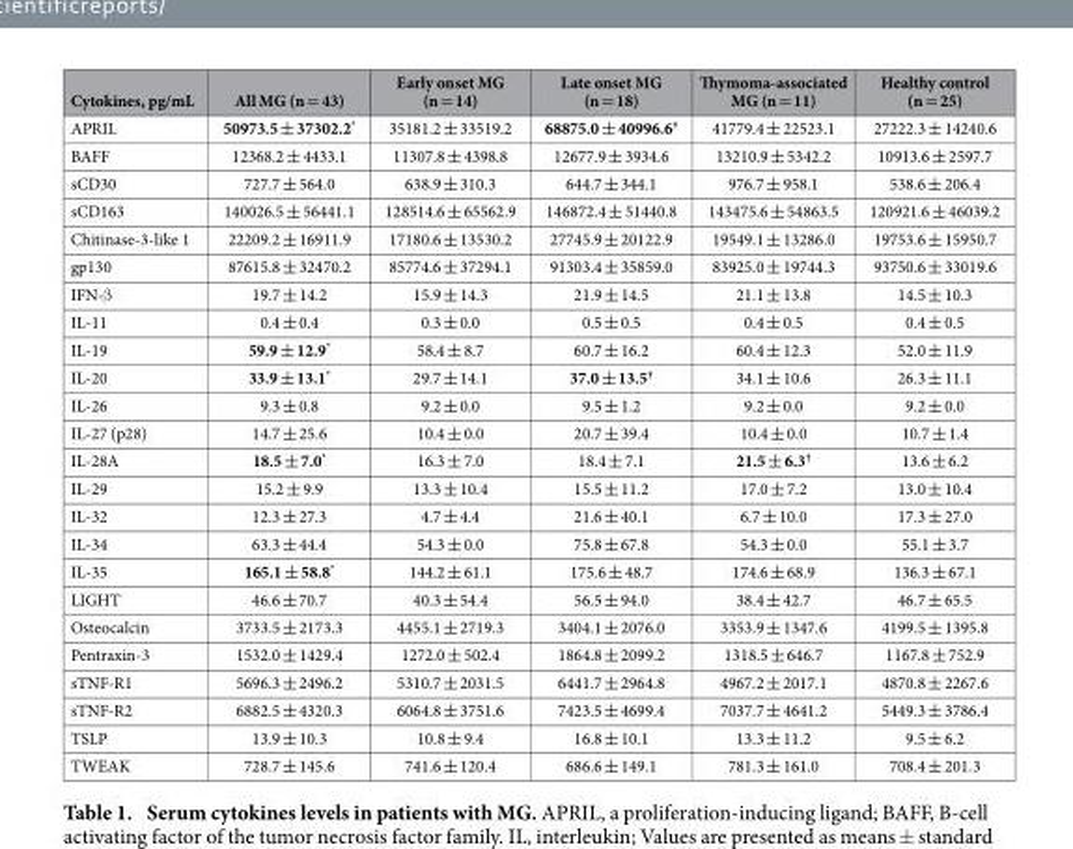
<table><thead><tr><td>Cytokines, pg/mL</td><td>All MG (n = 43)</td><td>Early onset MG (n = 14)</td><td>Late onset MG (n = 18)</td><td>Thymoma-associated MG (n = 11)</td><td>Healthy control (n = 25)</td></tr></thead><tbody><tr><td>APRIL</td><td>50973.5 ± 37302.2*</td><td>35181.2 ± 33519.2</td><td>68875.0 ± 40996.6†</td><td>41779.4 ± 22523.1</td><td>27222.3 ± 14240.6</td></tr><tr><td>BAFF</td><td>12368.2 ± 4433.1</td><td>11307.8 ± 4398.8</td><td>12677.9 ± 3934.6</td><td>13210.9 ± 5342.2</td><td>10913.6 ± 2597.7</td></tr><tr><td>sCD30</td><td>727.7 ± 564.0</td><td>638.9 ± 310.3</td><td>644.7 ± 344.1</td><td>976.7 ± 958.1</td><td>538.6 ± 206.4</td></tr><tr><td>sCD163</td><td>140026.5 ± 56441.1</td><td>128514.6 ± 65562.9</td><td>146872.4 ± 51440.8</td><td>143475.6 ± 54863.5</td><td>120921.6 ± 46039.2</td></tr><tr><td>Chitinase-3-like 1</td><td>22209.2 ± 16911.9</td><td>17180.6 ± 13530.2</td><td>27745.9 ± 20122.9</td><td>19549.1 ± 13286.0</td><td>19753.6 ± 15950.7</td></tr><tr><td>gp130</td><td>87615.8 ± 32470.2</td><td>85774.6 ± 37294.1</td><td>91303.4 ± 35859.0</td><td>83925.0 ± 19744.3</td><td>93750.6 ± 33019.6</td></tr><tr><td>IFN-β</td><td>19.7 ± 14.2</td><td>15.9 ± 14.3</td><td>21.9 ± 14.5</td><td>21.1 ± 13.8</td><td>14.5 ± 10.3</td></tr><tr><td>IL-11</td><td>0.4 ± 0.4</td><td>0.3 ± 0.0</td><td>0.5 ± 0.5</td><td>0.4 ± 0.5</td><td>0.4 ± 0.5</td></tr><tr><td>IL-19</td><td>59.9 ± 12.9*</td><td>58.4 ± 8.7</td><td>60.7 ± 16.2</td><td>60.4 ± 12.3</td><td>52.0 ± 11.9</td></tr><tr><td>IL-20</td><td>33.9 ± 13.1*</td><td>29.7 ± 14.1</td><td>37.0 ± 13.5†</td><td>34.1 ± 10.6</td><td>26.3 ± 11.1</td></tr><tr><td>IL-26</td><td>9.3 ± 0.8</td><td>9.2 ± 0.0</td><td>9.5 ± 1.2</td><td>9.2 ± 0.0</td><td>9.2 ± 0.0</td></tr><tr><td>IL-27 (p28)</td><td>14.7 ± 25.6</td><td>10.4 ± 0.0</td><td>20.7 ± 39.4</td><td>10.4 ± 0.0</td><td>10.7 ± 1.4</td></tr><tr><td>IL-28A</td><td>18.5 ± 7.0*</td><td>16.3 ± 7.0</td><td>18.4 ± 7.1</td><td>21.5 ± 6.3†</td><td>13.6 ± 6.2</td></tr><tr><td>IL-29</td><td>15.2 ± 9.9</td><td>13.3 ± 10.4</td><td>15.5 ± 11.2</td><td>17.0 ± 7.2</td><td>13.0 ± 10.4</td></tr><tr><td>IL-32</td><td>12.3 ± 27.3</td><td>4.7 ± 4.4</td><td>21.6 ± 40.1</td><td>6.7 ± 10.0</td><td>17.3 ± 27.0</td></tr><tr><td>IL-34</td><td>63.3 ± 44.4</td><td>54.3 ± 0.0</td><td>75.8 ± 67.8</td><td>54.3 ± 0.0</td><td>55.1 ± 3.7</td></tr><tr><td>IL-35</td><td>165.1 ± 58.8*</td><td>144.2 ± 61.1</td><td>175.6 ± 48.7</td><td>174.6 ± 68.9</td><td>136.3 ± 67.1</td></tr><tr><td>LIGHT</td><td>46.6 ± 70.7</td><td>40.3 ± 54.4</td><td>56.5 ± 94.0</td><td>38.4 ± 42.7</td><td>46.7 ± 65.5</td></tr><tr><td>Osteocalcin</td><td>3733.5 ± 2173.3</td><td>4455.1 ± 2719.3</td><td>3404.1 ± 2076.0</td><td>3353.9 ± 1347.6</td><td>4199.5 ± 1395.8</td></tr><tr><td>Pentraxin-3</td><td>1532.0 ± 1429.4</td><td>1272.0 ± 502.4</td><td>1864.8 ± 2099.2</td><td>1318.5 ± 646.7</td><td>1167.8 ± 752.9</td></tr><tr><td>sTNF-R1</td><td>5696.3 ± 2496.2</td><td>5310.7 ± 2031.5</td><td>6441.7 ± 2964.8</td><td>4967.2 ± 2017.1</td><td>4870.8 ± 2267.6</td></tr><tr><td>sTNF-R2</td><td>6882.5 ± 4320.3</td><td>6064.8 ± 3751.6</td><td>7423.5 ± 4699.4</td><td>7037.7 ± 4641.2</td><td>5449.3 ± 3786.4</td></tr><tr><td>TSLP</td><td>13.9 ± 10.3</td><td>10.8 ± 9.4</td><td>16.8 ± 10.1</td><td>13.3 ± 11.2</td><td>9.5 ± 6.2</td></tr><tr><td>TWEAK</td><td>728.7 ± 145.6</td><td>741.6 ± 120.4</td><td>686.6 ± 149.1</td><td>781.3 ± 161.0</td><td>708.4 ± 201.3</td></tr></tbody></table>